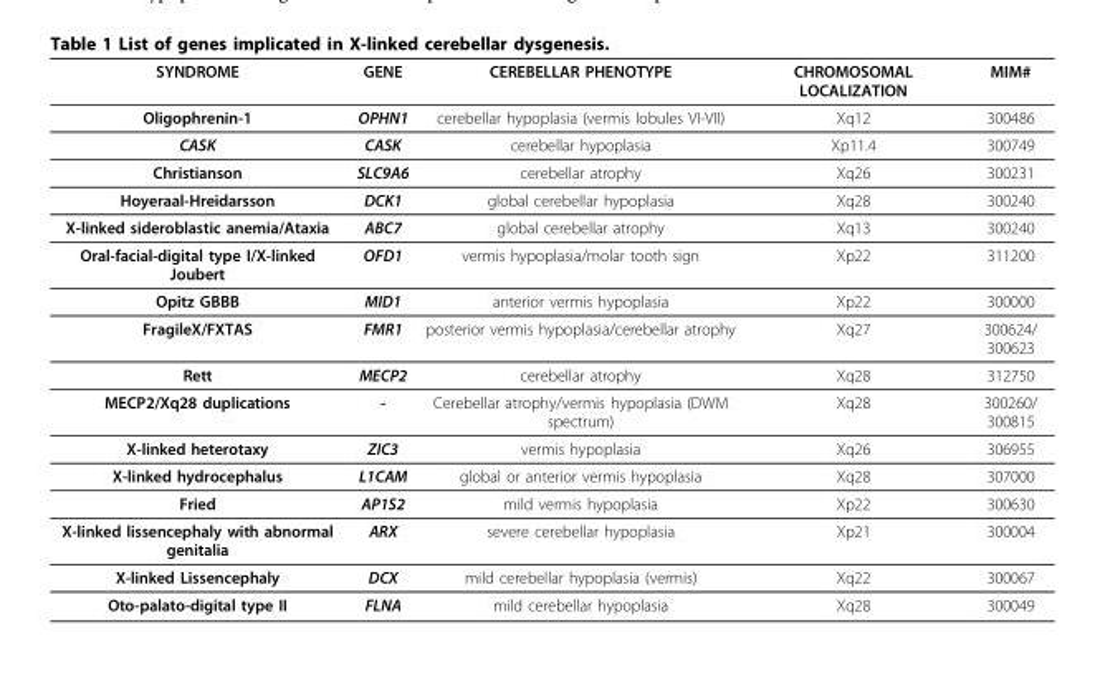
<table><thead><tr><td>SYNDROME</td><td>GENE</td><td>CEREBELLAR PHENOTYPE</td><td>CHROMOSOMAL LOCALIZATION</td><td>MIM#</td></tr></thead><tbody><tr><td>Oligophrenin-1</td><td>OPHN1</td><td>cerebellar hypoplasia (vermis lobules VI-VII)</td><td>Xq12</td><td>300486</td></tr><tr><td>CASK</td><td>CASK</td><td>cerebellar hypoplasia</td><td>Xp11.4</td><td>300749</td></tr><tr><td>Christianson</td><td>SLC9A6</td><td>cerebellar atrophy</td><td>Xq26</td><td>300231</td></tr><tr><td>Hoyeraal-Hreidarsson</td><td>DCK1</td><td>global cerebellar hypoplasia</td><td>Xq28</td><td>300240</td></tr><tr><td>X-linked sideroblastic anemia/Ataxia</td><td>ABC7</td><td>global cerebellar atrophy</td><td>Xq13</td><td>300240</td></tr><tr><td>Oral-facial-digital type I/X-linked Joubert</td><td>OFD1</td><td>vermis hypoplasia/molar tooth sign</td><td>Xp22</td><td>311200</td></tr><tr><td>Opitz GBBB</td><td>MID1</td><td>anterior vermis hypoplasia</td><td>Xp22</td><td>300000</td></tr><tr><td>FragileX/FXTAS</td><td>FMR1</td><td>posterior vermis hypoplasia/cerebellar atrophy</td><td>Xq27</td><td>300624/ 300623</td></tr><tr><td>Rett</td><td>MECP2</td><td>cerebellar atrophy</td><td>Xq28</td><td>312750</td></tr><tr><td>MECP2/Xq28 duplications</td><td>-</td><td>Cerebellar atrophy/vermis hypoplasia (DWM spectrum)</td><td>Xq28</td><td>300260/ 300815</td></tr><tr><td>X-linked heterotaxy</td><td>ZIC3</td><td>vermis hypoplasia</td><td>Xq26</td><td>306955</td></tr><tr><td>X-linked hydrocephalus</td><td>L1CAM</td><td>global or anterior vermis hypoplasia</td><td>Xq28</td><td>307000</td></tr><tr><td>Fried</td><td>AP1S2</td><td>mild vermis hypoplasia</td><td>Xp22</td><td>300630</td></tr><tr><td>X-linked lissencephaly with abnormal genitalia</td><td>ARX</td><td>severe cerebellar hypoplasia</td><td>Xp21</td><td>300004</td></tr><tr><td>X-linked Lissencephaly</td><td>DCX</td><td>mild cerebellar hypoplasia (vermis)</td><td>Xq22</td><td>300067</td></tr><tr><td>Oto-palato-digital type II</td><td>FLNA</td><td>mild cerebellar hypoplasia</td><td>Xq28</td><td>300049</td></tr></tbody></table>